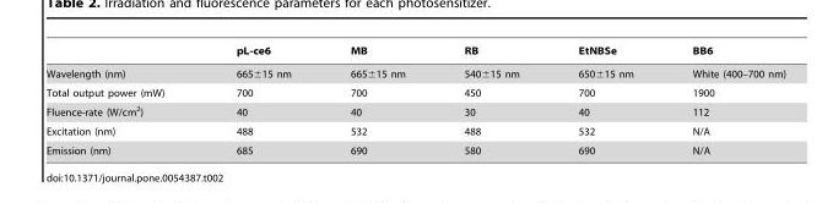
<table><thead><tr><td></td><td>pL-ce6</td><td>MB</td><td>RB</td><td>EtNBSe</td><td>BB6</td></tr></thead><tbody><tr><td>Wavelength (nm)</td><td>665±15 nm</td><td>665±15 nm</td><td>540±15 nm</td><td>650±15 nm</td><td>White (400–700 nm)</td></tr><tr><td>Total output power (mW)</td><td>700</td><td>700</td><td>450</td><td>700</td><td>1900</td></tr><tr><td>Fluence-rate (W/cm<sup>2</sup>)</td><td>40</td><td>40</td><td>30</td><td>40</td><td>112</td></tr><tr><td>Excitation (nm)</td><td>488</td><td>532</td><td>488</td><td>532</td><td>N/A</td></tr><tr><td>Emission (nm)</td><td>685</td><td>690</td><td>580</td><td>690</td><td>N/A</td></tr></tbody></table>